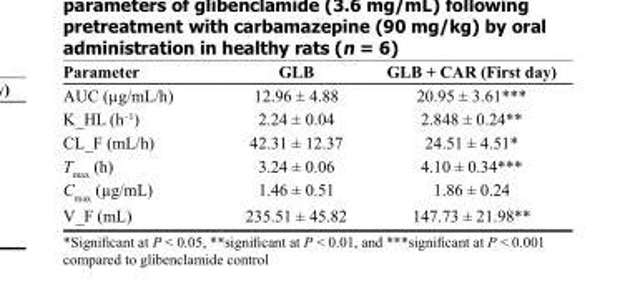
<table><thead><tr><td>Parameter</td><td>GLB</td><td>GLB + CAR (First day)</td></tr></thead><tbody><tr><td>AUC (µg/mL/h)</td><td>12.96 ± 4.88</td><td>20.95 ± 3.61***</td></tr><tr><td>K_HL (h<sup>–1</sup>)</td><td>2.24 ± 0.04</td><td>2.848 ± 0.24**</td></tr><tr><td>CL_F (mL/h)</td><td>42.31 ± 12.37</td><td>24.51 ± 4.51*</td></tr><tr><td>T<sub>max</sub> (h)</td><td>3.24 ± 0.06</td><td>4.10 ± 0.34***</td></tr><tr><td>C<sub>max</sub> (µg/mL)</td><td>1.46 ± 0.51</td><td>1.86 ± 0.24</td></tr><tr><td>V_F (mL)</td><td>235.51 ± 45.82</td><td>147.73 ± 21.98**</td></tr></tbody></table>